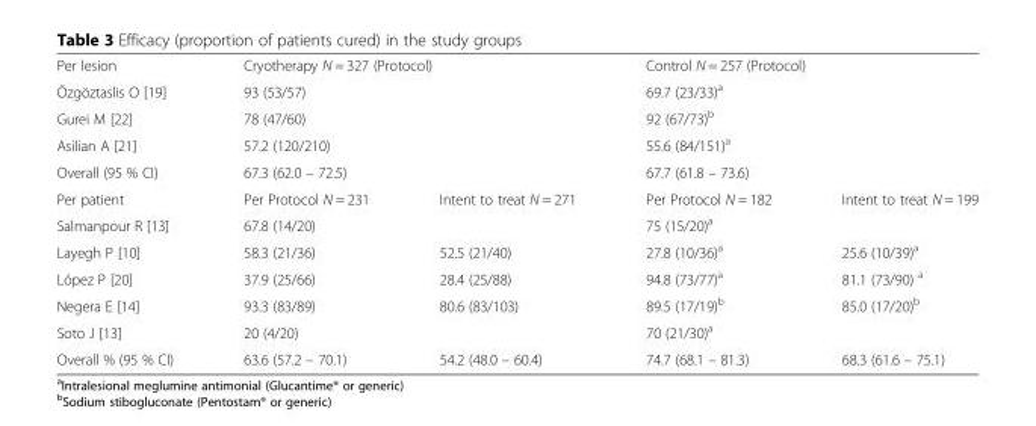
<table><tbody><tr><td>Per lesion</td><td colspan="2">Cryotherapy N = 327 (Protocol)</td><td colspan="2">Control N = 257 (Protocol)</td></tr><tr><td>Özgöztaslis O [19]</td><td colspan="2">93 (53/57)</td><td colspan="2">69.7 (23/33)<sup>a</sup></td></tr><tr><td>Gurei M [22]</td><td colspan="2">78 (47/60)</td><td colspan="2">92 (67/73)<sup>b</sup></td></tr><tr><td>Asilian A [21]</td><td colspan="2">57.2 (120/210)</td><td colspan="2">55.6 (84/151)<sup>a</sup></td></tr><tr><td>Overall (95 % CI)</td><td colspan="2">67.3 (62.0 – 72.5)</td><td colspan="2">67.7 (61.8 – 73.6)</td></tr><tr><td>Per patient</td><td>Per Protocol N = 231</td><td>Intent to treat N = 271</td><td>Per Protocol N = 182</td><td>Intent to treat N = 199</td></tr><tr><td>Salmanpour R [13]</td><td colspan="2">67.8 (14/20)</td><td colspan="2">75 (15/20)<sup>a</sup></td></tr><tr><td>Layegh P [10]</td><td>58.3 (21/36)</td><td>52.5 (21/40)</td><td>27.8 (10/36)<sup>a</sup></td><td>25.6 (10/39)<sup>a</sup></td></tr><tr><td>López P [20]</td><td>37.9 (25/66)</td><td>28.4 (25/88)</td><td>94.8 (73/77)<sup>a</sup></td><td>81.1 (73/90) <sup>a</sup></td></tr><tr><td>Negera E [14]</td><td>93.3 (83/89)</td><td>80.6 (83/103)</td><td>89.5 (17/19)<sup>b</sup></td><td>85.0 (17/20)<sup>b</sup></td></tr><tr><td>Soto J [13]</td><td colspan="2">20 (4/20)</td><td colspan="2">70 (21/30)<sup>a</sup></td></tr><tr><td>Overall % (95 % CI)</td><td>63.6 (57.2 – 70.1)</td><td>54.2 (48.0 – 60.4)</td><td>74.7 (68.1 – 81.3)</td><td>68.3 (61.6 – 75.1)</td></tr></tbody></table>